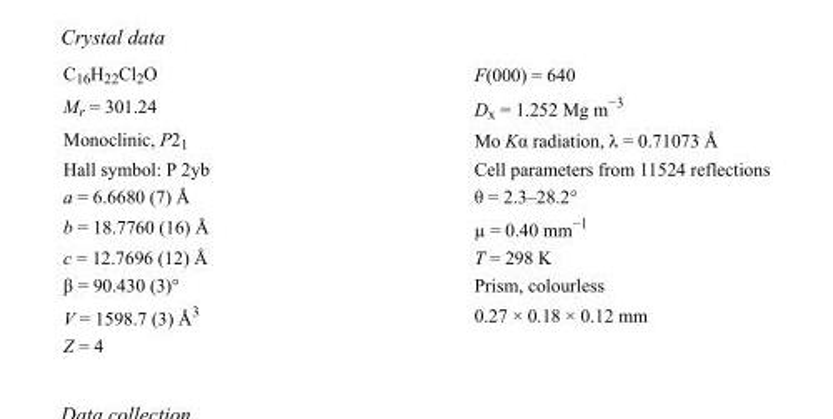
<table><tbody><tr><td>C<sub>16</sub>H<sub>22</sub>Cl<sub>2</sub>O</td><td>F(000) = 640</td></tr><tr><td>M<sub>r</sub> = 301.24</td><td>D<sub>x</sub> = 1.252 Mg m<sup>−3</sup></td></tr><tr><td>Monoclinic, P2<sub>1</sub></td><td>Mo Kα radiation, λ = 0.71073 Å</td></tr><tr><td>Hall symbol: P 2yb</td><td>Cell parameters from 11524 reflections</td></tr><tr><td>a = 6.6680 (7) Å</td><td>θ = 2.3–28.2°</td></tr><tr><td>b = 18.7760 (16) Å</td><td>µ = 0.40 mm<sup>−1</sup></td></tr><tr><td>c = 12.7696 (12) Å</td><td>T = 298 K</td></tr><tr><td>β = 90.430 (3)°</td><td>Prism, colourless</td></tr><tr><td>V = 1598.7 (3) Å<sup>3</sup></td><td>0.27 × 0.18 × 0.12 mm</td></tr><tr><td>Z = 4</td><td></td></tr></tbody></table>